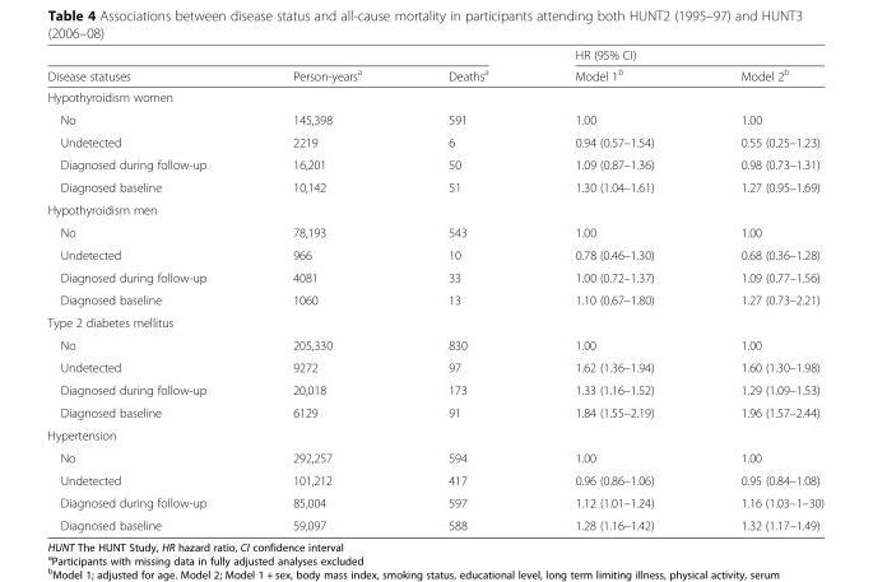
<table><thead><tr><td rowspan="2">Disease statuses</td><td rowspan="2">Person-years<sup>a</sup></td><td rowspan="2">Deaths<sup>a</sup></td><td colspan="2">HR (95% CI)</td></tr><tr><td>Model 1<sup>b</sup></td><td>Model 2<sup>b</sup></td></tr></thead><tbody><tr><td colspan="5">Hypothyroidism women</td></tr><tr><td>No</td><td>145,398</td><td>591</td><td>1.00</td><td>1.00</td></tr><tr><td>Undetected</td><td>2219</td><td>6</td><td>0.94 (0.57–1.54)</td><td>0.55 (0.25–1.23)</td></tr><tr><td>Diagnosed during follow-up</td><td>16,201</td><td>50</td><td>1.09 (0.87–1.36)</td><td>0.98 (0.73–1.31)</td></tr><tr><td>Diagnosed baseline</td><td>10,142</td><td>51</td><td>1.30 (1.04–1.61)</td><td>1.27 (0.95–1.69)</td></tr><tr><td colspan="5">Hypothyroidism men</td></tr><tr><td>No</td><td>78,193</td><td>543</td><td>1.00</td><td>1.00</td></tr><tr><td>Undetected</td><td>966</td><td>10</td><td>0.78 (0.46–1.30)</td><td>0.68 (0.36–1.28)</td></tr><tr><td>Diagnosed during follow-up</td><td>4081</td><td>33</td><td>1.00 (0.72–1.37)</td><td>1.09 (0.77–1.56)</td></tr><tr><td>Diagnosed baseline</td><td>1060</td><td>13</td><td>1.10 (0.67–1.80)</td><td>1.27 (0.73–2.21)</td></tr><tr><td colspan="5">Type 2 diabetes mellitus</td></tr><tr><td>No</td><td>205,330</td><td>830</td><td>1.00</td><td>1.00</td></tr><tr><td>Undetected</td><td>9272</td><td>97</td><td>1.62 (1.36–1.94)</td><td>1.60 (1.30–1.98)</td></tr><tr><td>Diagnosed during follow-up</td><td>20,018</td><td>173</td><td>1.33 (1.16–1.52)</td><td>1.29 (1.09–1.53)</td></tr><tr><td>Diagnosed baseline</td><td>6129</td><td>91</td><td>1.84 (1.55–2.19)</td><td>1.96 (1.57–2.44)</td></tr><tr><td colspan="5">Hypertension</td></tr><tr><td>No</td><td>292,257</td><td>594</td><td>1.00</td><td>1.00</td></tr><tr><td>Undetected</td><td>101,212</td><td>417</td><td>0.96 (0.86–1.06)</td><td>0.95 (0.84–1.08)</td></tr><tr><td>Diagnosed during follow-up</td><td>85,004</td><td>597</td><td>1.12 (1.01–1.24)</td><td>1.16 (1.03–1–30)</td></tr><tr><td>Diagnosed baseline</td><td>59,097</td><td>588</td><td>1.28 (1.16–1.42)</td><td>1.32 (1.17–1.49)</td></tr></tbody></table>